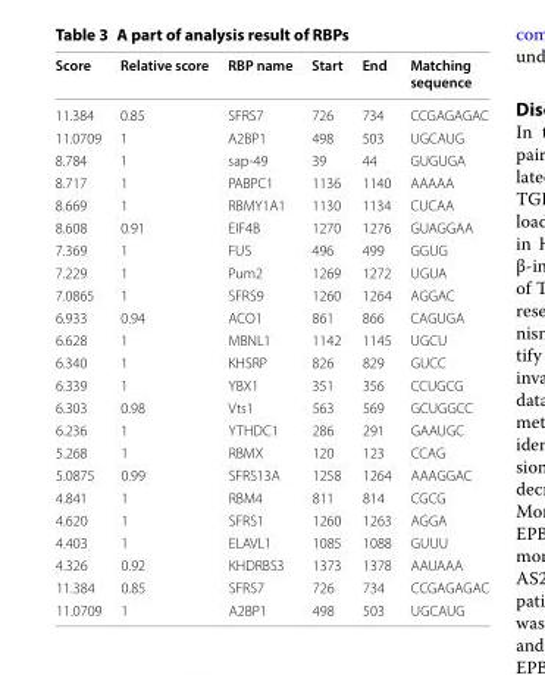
<table><thead><tr><td>Score</td><td>Relative score</td><td>RBP name</td><td>Start</td><td>End</td><td>Matching sequence</td></tr></thead><tbody><tr><td>11.384</td><td>0.85</td><td>SFRS7</td><td>726</td><td>734</td><td>CCG AGA GAC</td></tr><tr><td>11.0709</td><td>1</td><td>A2BP1</td><td>498</td><td>503</td><td>UGC AUG</td></tr><tr><td>8.784</td><td>1</td><td>sap‑49</td><td>39</td><td>44</td><td>GUG UGA</td></tr><tr><td>8.717</td><td>1</td><td>PABPC1</td><td>1136</td><td>1140</td><td>AAAAA</td></tr><tr><td>8.669</td><td>1</td><td>RBMY1A1</td><td>1130</td><td>1134</td><td>CUCAA</td></tr><tr><td>8.608</td><td>0.91</td><td>EIF4B</td><td>1270</td><td>1276</td><td>GUA GGA A</td></tr><tr><td>7.369</td><td>1</td><td>FUS</td><td>496</td><td>499</td><td>GGUG</td></tr><tr><td>7.229</td><td>1</td><td>Pum2</td><td>1269</td><td>1272</td><td>UGUA</td></tr><tr><td>7.0865</td><td>1</td><td>SFRS9</td><td>1260</td><td>1264</td><td>AGGAC</td></tr><tr><td>6.933</td><td>0.94</td><td>ACO1</td><td>861</td><td>866</td><td>CAG UGA</td></tr><tr><td>6.628</td><td>1</td><td>MBNL1</td><td>1142</td><td>1145</td><td>UGCU</td></tr><tr><td>6.340</td><td>1</td><td>KHSRP</td><td>826</td><td>829</td><td>GUCC</td></tr><tr><td>6.339</td><td>1</td><td>YBX1</td><td>351</td><td>356</td><td>CCU GCG</td></tr><tr><td>6.303</td><td>0.98</td><td>Vts1</td><td>563</td><td>569</td><td>GCU GGC C</td></tr><tr><td>6.236</td><td>1</td><td>YTHDC1</td><td>286</td><td>291</td><td>GAA UGC</td></tr><tr><td>5.268</td><td>1</td><td>RBMX</td><td>120</td><td>123</td><td>CCAG</td></tr><tr><td>5.0875</td><td>0.99</td><td>SFRS13A</td><td>1258</td><td>1264</td><td>AAA GGA C</td></tr><tr><td>4.841</td><td>1</td><td>RBM4</td><td>811</td><td>814</td><td>CGCG</td></tr><tr><td>4.620</td><td>1</td><td>SFRS1</td><td>1260</td><td>1263</td><td>AGGA</td></tr><tr><td>4.403</td><td>1</td><td>ELAVL1</td><td>1085</td><td>1088</td><td>GUUU</td></tr><tr><td>4.326</td><td>0.92</td><td>KHDRBS3</td><td>1373</td><td>1378</td><td>AAU AAA</td></tr><tr><td>11.384</td><td>0.85</td><td>SFRS7</td><td>726</td><td>734</td><td>CCG AGA GAC</td></tr><tr><td>11.0709</td><td>1</td><td>A2BP1</td><td>498</td><td>503</td><td>UGC AUG</td></tr></tbody></table>